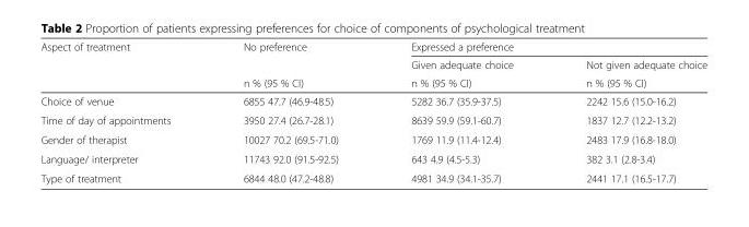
<table><thead><tr><td rowspan="3">Aspect of treatment</td><td rowspan="3">No preference n % (95 % CI)</td><td colspan="2">Expressed a preference</td></tr><tr><td rowspan="2">Given adequate choice n % (95 % CI)</td><td rowspan="2">Not given adequate choice n % (95 % CI)</td></tr><tr></tr></thead><tbody><tr><td>Choice of venue</td><td>6855 47.7 (46.9-48.5)</td><td>5282 36.7 (35.9-37.5)</td><td>2242 15.6 (15.0-16.2)</td></tr><tr><td>Time of day of appointments</td><td>3950 27.4 (26.7-28.1)</td><td>8639 59.9 (59.1-60.7)</td><td>1837 12.7 (12.2-13.2)</td></tr><tr><td>Gender of therapist</td><td>10027 70.2 (69.5-71.0)</td><td>1769 11.9 (11.4-12.4)</td><td>2483 17.9 (16.8-18.0)</td></tr><tr><td>Language/ interpreter</td><td>11743 92.0 (91.5-92.5)</td><td>643 4.9 (4.5-5.3)</td><td>382 3.1 (2.8-3.4)</td></tr><tr><td>Type of treatment</td><td>6844 48.0 (47.2-48.8)</td><td>4981 34.9 (34.1-35.7)</td><td>2441 17.1 (16.5-17.7)</td></tr></tbody></table>